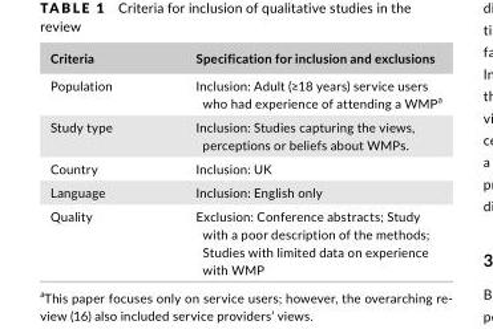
<table><thead><tr><td>Criteria</td><td>Specification for inclusion and exclusions</td></tr></thead><tbody><tr><td>Population</td><td>Inclusion: Adult (≥18 years) service users who had experience of attending a WMP<sup>a</sup></td></tr><tr><td>Study type</td><td>Inclusion: Studies capturing the views, perceptions or beliefs about WMPs.</td></tr><tr><td>Country</td><td>Inclusion: UK</td></tr><tr><td>Language</td><td>Inclusion: English only</td></tr><tr><td>Quality</td><td>Exclusion: Conference abstracts; Study with a poor description of the methods; Studies with limited data on experience with WMP</td></tr></tbody></table>